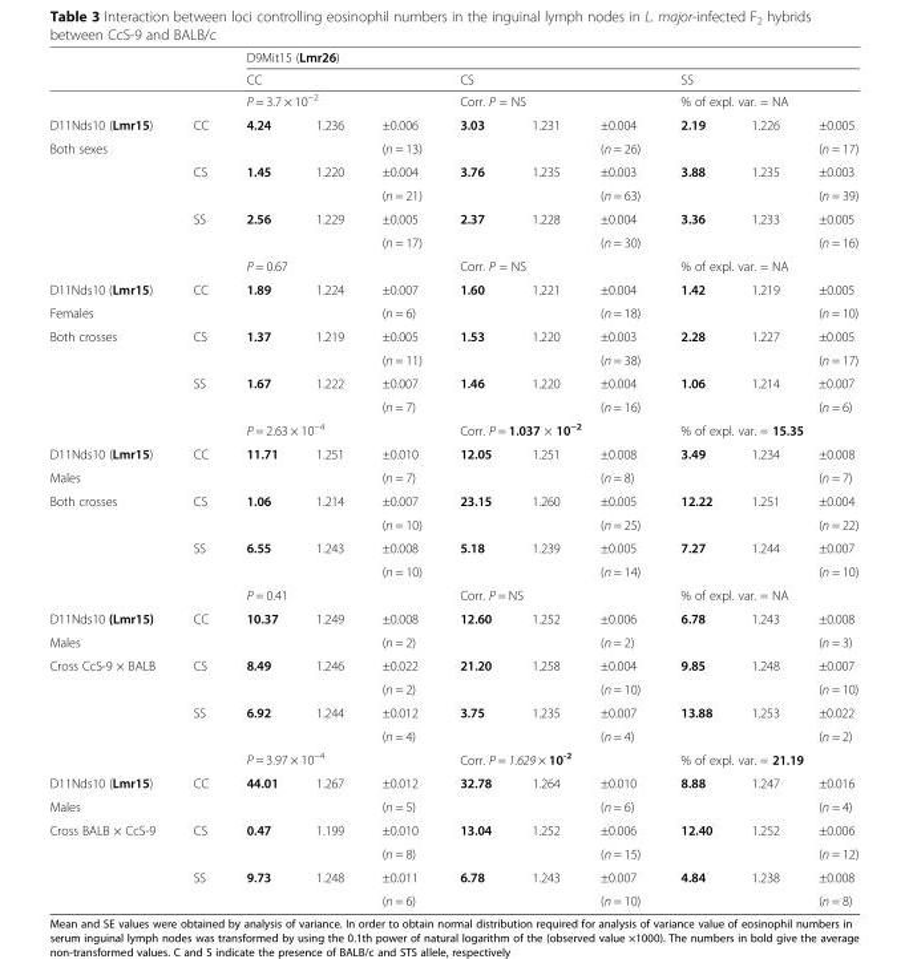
<table><thead><tr><td rowspan="2"></td><td rowspan="2"></td><td colspan="9">D9Mit15 (Lmr26)</td></tr><tr><td rowspan="2" colspan="3">CC P = 3.7 × 10−2</td><td rowspan="2" colspan="3">CS Corr. P = NS</td><td rowspan="2" colspan="3">SS % of expl. var. = NA</td></tr><tr><td colspan="2"></td></tr><tr><td>D11Nds10 (Lmr15)</td><td>CC</td><td>4.24</td><td>1.236</td><td>±0.006</td><td>3.03</td><td>1.231</td><td>±0.004</td><td>2.19</td><td>1.226</td><td>±0.005</td></tr></thead><tbody><tr><td rowspan="5">Both sexes</td><td></td><td></td><td></td><td>(n = 13)</td><td></td><td></td><td>(n = 26)</td><td></td><td></td><td>(n = 17)</td></tr><tr><td>CS</td><td>1.45</td><td>1.220</td><td>±0.004</td><td>3.76</td><td>1.235</td><td>±0.003</td><td>3.88</td><td>1.235</td><td>±0.003</td></tr><tr><td></td><td></td><td></td><td>(n = 21)</td><td></td><td></td><td>(n = 63)</td><td></td><td></td><td>(n = 39)</td></tr><tr><td>SS</td><td>2.56</td><td>1.229</td><td>±0.005</td><td>2.37</td><td>1.228</td><td>±0.004</td><td>3.36</td><td>1.233</td><td>±0.005</td></tr><tr><td></td><td></td><td></td><td>(n = 17)</td><td></td><td></td><td>(n = 30)</td><td></td><td></td><td>(n = 16)</td></tr><tr><td colspan="2"></td><td colspan="3">P = 0.67</td><td colspan="3">Corr. P = NS</td><td colspan="3">% of expl. var. = NA</td></tr><tr><td>D11Nds10 (Lmr15)</td><td>CC</td><td>1.89</td><td>1.224</td><td>±0.007</td><td>1.60</td><td>1.221</td><td>±0.004</td><td>1.42</td><td>1.219</td><td>±0.005</td></tr><tr><td>Females</td><td></td><td></td><td></td><td>(n = 6)</td><td></td><td></td><td>(n = 18)</td><td></td><td></td><td>(n = 10)</td></tr><tr><td rowspan="4">Both crosses</td><td>CS</td><td>1.37</td><td>1.219</td><td>±0.005</td><td>1.53</td><td>1.220</td><td>±0.003</td><td>2.28</td><td>1.227</td><td>±0.005</td></tr><tr><td></td><td></td><td></td><td>(n = 11)</td><td></td><td></td><td>(n = 38)</td><td></td><td></td><td>(n = 17)</td></tr><tr><td>SS</td><td>1.67</td><td>1.222</td><td>±0.007</td><td>1.46</td><td>1.220</td><td>±0.004</td><td>1.06</td><td>1.214</td><td>±0.007</td></tr><tr><td></td><td></td><td></td><td>(n = 7)</td><td></td><td></td><td>(n = 16)</td><td></td><td></td><td>(n = 6)</td></tr><tr><td colspan="2"></td><td colspan="3">P = 2.63 × 10<sup>−4</sup></td><td colspan="3">Corr. P = 1.037 × 10<sup>−2</sup></td><td colspan="3">% of expl. var. = 15.35</td></tr><tr><td>D11Nds10 (Lmr15)</td><td>CC</td><td>11.71</td><td>1.251</td><td>±0.010</td><td>12.05</td><td>1.251</td><td>±0.008</td><td>3.49</td><td>1.234</td><td>±0.008</td></tr><tr><td>Males</td><td></td><td></td><td></td><td>(n = 7)</td><td></td><td></td><td>(n = 8)</td><td></td><td></td><td>(n = 7)</td></tr><tr><td rowspan="4">Both crosses</td><td>CS</td><td>1.06</td><td>1.214</td><td>±0.007</td><td>23.15</td><td>1.260</td><td>±0.005</td><td>12.22</td><td>1.251</td><td>±0.004</td></tr><tr><td></td><td></td><td></td><td>(n = 10)</td><td></td><td></td><td>(n = 25)</td><td></td><td></td><td>(n = 22)</td></tr><tr><td>SS</td><td>6.55</td><td>1.243</td><td>±0.008</td><td>5.18</td><td>1.239</td><td>±0.005</td><td>7.27</td><td>1.244</td><td>±0.007</td></tr><tr><td></td><td></td><td></td><td>(n = 10)</td><td></td><td></td><td>(n = 14)</td><td></td><td></td><td>(n = 10)</td></tr><tr><td colspan="2"></td><td colspan="3">P = 0.41</td><td colspan="3">Corr. P = NS</td><td colspan="3">% of expl. var. = NA</td></tr><tr><td>D11Nds10 (Lmr15)</td><td>CC</td><td>10.37</td><td>1.249</td><td>±0.008</td><td>12.60</td><td>1.252</td><td>±0.006</td><td>6.78</td><td>1.243</td><td>±0.008</td></tr><tr><td>Males</td><td></td><td></td><td></td><td>(n = 2)</td><td></td><td></td><td>(n = 2)</td><td></td><td></td><td>(n = 3)</td></tr><tr><td rowspan="4">Cross CcS-9 × BALB</td><td>CS</td><td>8.49</td><td>1.246</td><td>±0.022</td><td>21.20</td><td>1.258</td><td>±0.004</td><td>9.85</td><td>1.248</td><td>±0.007</td></tr><tr><td></td><td></td><td></td><td>(n = 2)</td><td></td><td></td><td>(n = 10)</td><td></td><td></td><td>(n = 10)</td></tr><tr><td>SS</td><td>6.92</td><td>1.244</td><td>±0.012</td><td>3.75</td><td>1.235</td><td>±0.007</td><td>13.88</td><td>1.253</td><td>±0.022</td></tr><tr><td></td><td></td><td></td><td>(n = 4)</td><td></td><td></td><td>(n = 4)</td><td></td><td></td><td>(n = 2)</td></tr><tr><td colspan="2"></td><td colspan="3">P = 3.97 × 10<sup>−4</sup></td><td colspan="3">Corr. P = 1.629 × 10<sup>-2</sup></td><td colspan="3">% of expl. var. = 21.19</td></tr><tr><td>D11Nds10 (Lmr15)</td><td>CC</td><td>44.01</td><td>1.267</td><td>±0.012</td><td>32.78</td><td>1.264</td><td>±0.010</td><td>8.88</td><td>1.247</td><td>±0.016</td></tr><tr><td>Males</td><td></td><td></td><td></td><td>(n = 5)</td><td></td><td></td><td>(n = 6)</td><td></td><td></td><td>(n = 4)</td></tr><tr><td rowspan="4">Cross BALB × CcS-9</td><td>CS</td><td>0.47</td><td>1.199</td><td>±0.010</td><td>13.04</td><td>1.252</td><td>±0.006</td><td>12.40</td><td>1.252</td><td>±0.006</td></tr><tr><td></td><td></td><td></td><td>(n = 8)</td><td></td><td></td><td>(n = 15)</td><td></td><td></td><td>(n = 12)</td></tr><tr><td>SS</td><td>9.73</td><td>1.248</td><td>±0.011</td><td>6.78</td><td>1.243</td><td>±0.007</td><td>4.84</td><td>1.238</td><td>±0.008</td></tr><tr><td></td><td></td><td></td><td>(n = 6)</td><td></td><td></td><td>(n = 10)</td><td></td><td></td><td>(n = 8)</td></tr></tbody></table>